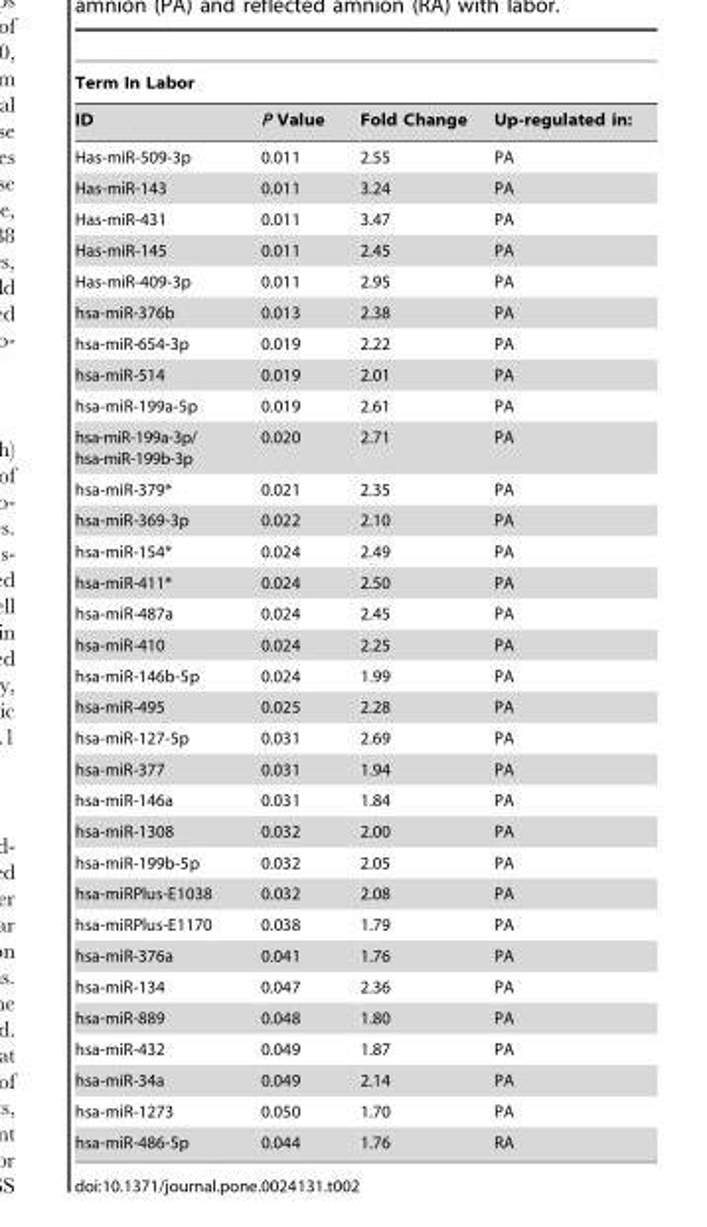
<table><thead><tr><td colspan="4">Term In Labor</td></tr><tr><td>ID</td><td>P Value</td><td>Fold Change</td><td>Up-regulated in:</td></tr></thead><tbody><tr><td>Has-miR-509-3p</td><td>0.011</td><td>2.55</td><td>PA</td></tr><tr><td>Has-miR-143</td><td>0.011</td><td>3.24</td><td>PA</td></tr><tr><td>Has-miR-431</td><td>0.011</td><td>3.47</td><td>PA</td></tr><tr><td>Has-miR-145</td><td>0.011</td><td>2.45</td><td>PA</td></tr><tr><td>Has-miR-409-3p</td><td>0.011</td><td>2.95</td><td>PA</td></tr><tr><td>hsa-miR-376b</td><td>0.013</td><td>2.38</td><td>PA</td></tr><tr><td>hsa-miR-654-3p</td><td>0.019</td><td>2.22</td><td>PA</td></tr><tr><td>hsa-miR-514</td><td>0.019</td><td>2.01</td><td>PA</td></tr><tr><td>hsa-miR-199a-5p</td><td>0.019</td><td>2.61</td><td>PA</td></tr><tr><td>hsa-miR-199a-3p/ hsa-miR-199b-3p</td><td>0.020</td><td>2.71</td><td>PA</td></tr><tr><td>hsa-miR-379*</td><td>0.021</td><td>2.35</td><td>PA</td></tr><tr><td>hsa-miR-369-3p</td><td>0.022</td><td>2.10</td><td>PA</td></tr><tr><td>hsa-miR-154*</td><td>0.024</td><td>2.49</td><td>PA</td></tr><tr><td>hsa-miR-411*</td><td>0.024</td><td>2.50</td><td>PA</td></tr><tr><td>hsa-miR-487a</td><td>0.024</td><td>2.45</td><td>PA</td></tr><tr><td>hsa-miR-410</td><td>0.024</td><td>2.25</td><td>PA</td></tr><tr><td>hsa-miR-146b-5p</td><td>0.024</td><td>1.99</td><td>PA</td></tr><tr><td>hsa-miR-495</td><td>0.025</td><td>2.28</td><td>PA</td></tr><tr><td>hsa-miR-127-5p</td><td>0.031</td><td>2.69</td><td>PA</td></tr><tr><td>hsa-miR-377</td><td>0.031</td><td>1.94</td><td>PA</td></tr><tr><td>hsa-miR-146a</td><td>0.031</td><td>1.84</td><td>PA</td></tr><tr><td>hsa-miR-1308</td><td>0.032</td><td>2.00</td><td>PA</td></tr><tr><td>hsa-miR-199b-5p</td><td>0.032</td><td>2.05</td><td>PA</td></tr><tr><td>hsa-miRPlus-E1038</td><td>0.032</td><td>2.08</td><td>PA</td></tr><tr><td>hsa-miRPlus-E1170</td><td>0.038</td><td>1.79</td><td>PA</td></tr><tr><td>hsa-miR-376a</td><td>0.041</td><td>1.76</td><td>PA</td></tr><tr><td>hsa-miR-134</td><td>0.047</td><td>2.36</td><td>PA</td></tr><tr><td>hsa-miR-889</td><td>0.048</td><td>1.80</td><td>PA</td></tr><tr><td>hsa-miR-432</td><td>0.049</td><td>1.87</td><td>PA</td></tr><tr><td>hsa-miR-34a</td><td>0.049</td><td>2.14</td><td>PA</td></tr><tr><td>hsa-miR-1273</td><td>0.050</td><td>1.70</td><td>PA</td></tr><tr><td>hsa-miR-486-5p</td><td>0.044</td><td>1.76</td><td>RA</td></tr></tbody></table>